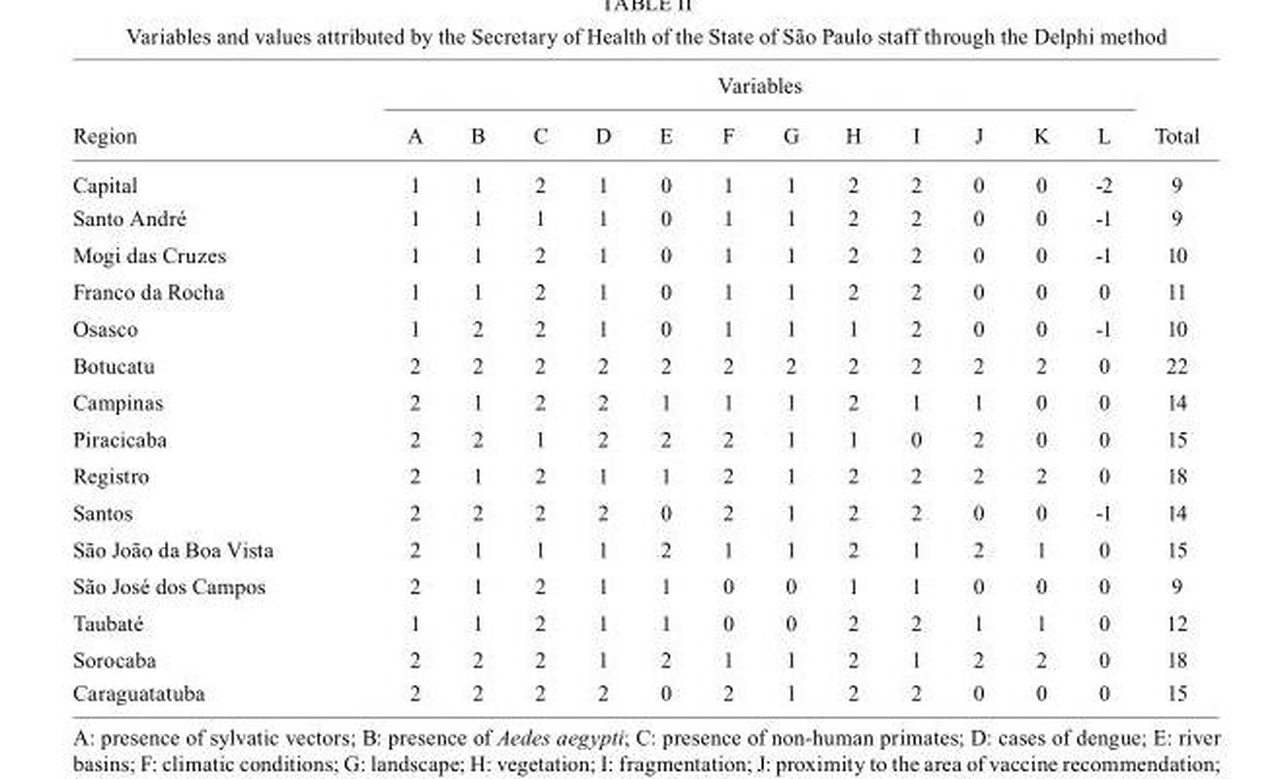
<table><thead><tr><td rowspan="2">Region</td><td colspan="12">Variables</td><td rowspan="2">Total</td></tr><tr><td>A</td><td>B</td><td>C</td><td>D</td><td>E</td><td>F</td><td>G</td><td>H</td><td>I</td><td>J</td><td>K</td><td>L</td></tr></thead><tbody><tr><td>Capital</td><td>1</td><td>1</td><td>2</td><td>1</td><td>0</td><td>1</td><td>1</td><td>2</td><td>2</td><td>0</td><td>0</td><td>-2</td><td>9</td></tr><tr><td>Santo André</td><td>1</td><td>1</td><td>1</td><td>1</td><td>0</td><td>1</td><td>1</td><td>2</td><td>2</td><td>0</td><td>0</td><td>-1</td><td>9</td></tr><tr><td>Mogi das Cruzes</td><td>1</td><td>1</td><td>2</td><td>1</td><td>0</td><td>1</td><td>1</td><td>2</td><td>2</td><td>0</td><td>0</td><td>-1</td><td>10</td></tr><tr><td>Franco da Rocha</td><td>1</td><td>1</td><td>2</td><td>1</td><td>0</td><td>1</td><td>1</td><td>2</td><td>2</td><td>0</td><td>0</td><td>0</td><td>11</td></tr><tr><td>Osasco</td><td>1</td><td>2</td><td>2</td><td>1</td><td>0</td><td>1</td><td>1</td><td>1</td><td>2</td><td>0</td><td>0</td><td>-1</td><td>10</td></tr><tr><td>Botucatu</td><td>2</td><td>2</td><td>2</td><td>2</td><td>2</td><td>2</td><td>2</td><td>2</td><td>2</td><td>2</td><td>2</td><td>0</td><td>22</td></tr><tr><td>Campinas</td><td>2</td><td>1</td><td>2</td><td>2</td><td>1</td><td>1</td><td>1</td><td>2</td><td>1</td><td>1</td><td>0</td><td>0</td><td>14</td></tr><tr><td>Piracicaba</td><td>2</td><td>2</td><td>1</td><td>2</td><td>2</td><td>2</td><td>1</td><td>1</td><td>0</td><td>2</td><td>0</td><td>0</td><td>15</td></tr><tr><td>Registro</td><td>2</td><td>1</td><td>2</td><td>1</td><td>1</td><td>2</td><td>1</td><td>2</td><td>2</td><td>2</td><td>2</td><td>0</td><td>18</td></tr><tr><td>Santos</td><td>2</td><td>2</td><td>2</td><td>2</td><td>0</td><td>2</td><td>1</td><td>2</td><td>2</td><td>0</td><td>0</td><td>-1</td><td>14</td></tr><tr><td>São João da Boa Vista</td><td>2</td><td>1</td><td>1</td><td>1</td><td>2</td><td>1</td><td>1</td><td>2</td><td>1</td><td>2</td><td>1</td><td>0</td><td>15</td></tr><tr><td>São José dos Campos</td><td>2</td><td>1</td><td>2</td><td>1</td><td>1</td><td>0</td><td>0</td><td>1</td><td>1</td><td>0</td><td>0</td><td>0</td><td>9</td></tr><tr><td>Taubaté</td><td>1</td><td>1</td><td>2</td><td>1</td><td>1</td><td>0</td><td>0</td><td>2</td><td>2</td><td>1</td><td>1</td><td>0</td><td>12</td></tr><tr><td>Sorocaba</td><td>2</td><td>2</td><td>2</td><td>1</td><td>2</td><td>1</td><td>1</td><td>2</td><td>1</td><td>2</td><td>2</td><td>0</td><td>18</td></tr><tr><td>Caraguatatuba</td><td>2</td><td>2</td><td>2</td><td>2</td><td>0</td><td>2</td><td>1</td><td>2</td><td>2</td><td>0</td><td>0</td><td>0</td><td>15</td></tr></tbody></table>